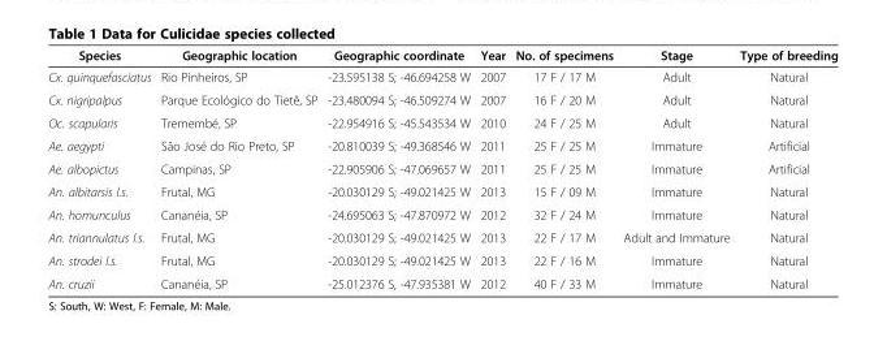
<table><thead><tr><td>Species</td><td>Geographic location</td><td>Geographic coordinate</td><td>Year</td><td>No. of specimens</td><td>Stage</td><td>Type of breeding</td></tr></thead><tbody><tr><td>Cx. quinquefasciatus</td><td>Rio Pinheiros, SP</td><td>-23.595138 S; -46.694258 W</td><td>2007</td><td>17 F / 17 M</td><td>Adult</td><td>Natural</td></tr><tr><td>Cx. nigripalpus</td><td>Parque Ecológico do Tietê, SP</td><td>-23.480094 S; -46.509274 W</td><td>2007</td><td>16 F / 20 M</td><td>Adult</td><td>Natural</td></tr><tr><td>Oc. scapularis</td><td>Tremembé, SP</td><td>-22.954916 S; -45.543534 W</td><td>2010</td><td>24 F / 25 M</td><td>Adult</td><td>Natural</td></tr><tr><td>Ae. aegypti</td><td>São José do Rio Preto, SP</td><td>-20.810039 S; -49.368546 W</td><td>2011</td><td>25 F / 25 M</td><td>Immature</td><td>Artificial</td></tr><tr><td>Ae. albopictus</td><td>Campinas, SP</td><td>-22.905906 S; -47.069657 W</td><td>2011</td><td>25 F / 25 M</td><td>Immature</td><td>Artificial</td></tr><tr><td>An. albitarsis l.s.</td><td>Frutal, MG</td><td>-20.030129 S; -49.021425 W</td><td>2013</td><td>15 F / 09 M</td><td>Immature</td><td>Natural</td></tr><tr><td>An. homunculus</td><td>Cananéia, SP</td><td>-24.695063 S; -47.870972 W</td><td>2012</td><td>32 F / 24 M</td><td>Immature</td><td>Natural</td></tr><tr><td>An. triannulatus l.s.</td><td>Frutal, MG</td><td>-20.030129 S; -49.021425 W</td><td>2013</td><td>22 F / 17 M</td><td>Adult and Immature</td><td>Natural</td></tr><tr><td>An. strodei l.s.</td><td>Frutal, MG</td><td>-20.030129 S; -49.021425 W</td><td>2013</td><td>22 F / 16 M</td><td>Immature</td><td>Natural</td></tr><tr><td>An. cruzii</td><td>Cananéia, SP</td><td>-25.012376 S, -47.935381 W</td><td>2012</td><td>40 F / 33 M</td><td>Immature</td><td>Natural</td></tr></tbody></table>